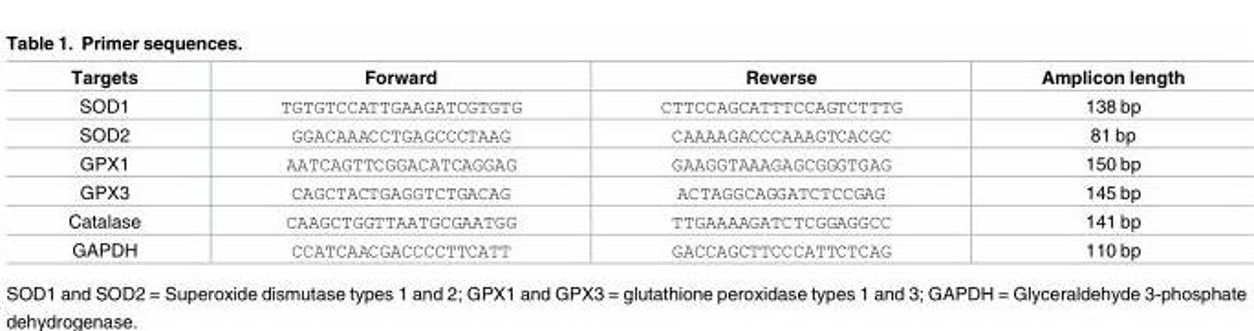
<table><thead><tr><td>Targets</td><td>Forward</td><td>Reverse</td><td>Amplicon length</td></tr></thead><tbody><tr><td>SOD1</td><td>TGTGTCCATTGAAGATCGTGTG</td><td>CTTCCAGCATTTCCAGTCTTTG</td><td>138 bp</td></tr><tr><td>SOD2</td><td>GGACAAACCTGAGCCCTAAG</td><td>CAAAAGACCCAAAGTCACGC</td><td>81 bp</td></tr><tr><td>GPX1</td><td>AATCAGTTCGGACATCAGGAG</td><td>GAAGGTAAAGAGCGGGTGAG</td><td>150 bp</td></tr><tr><td>GPX3</td><td>CAGCTACTGAGGTCTGACAG</td><td>ACTAGGCAGGATCTCCGAG</td><td>145 bp</td></tr><tr><td>Catalase</td><td>CAAGCTGGTTAATGCGAATGG</td><td>TTGAAAAGATCTCGGAGGCC</td><td>141 bp</td></tr><tr><td>GAPDH</td><td>CCATCAACGACCCCTTCATT</td><td>GACCAGCTTCCCATTCTCAG</td><td>110 bp</td></tr></tbody></table>